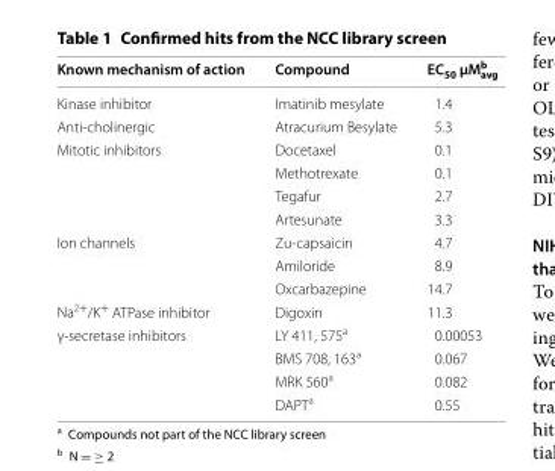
<table><thead><tr><td>Known mechanism of action</td><td>Compound</td><td>EC50 μMb avg</td></tr></thead><tbody><tr><td>Kinase inhibitor</td><td>Imatinib mesylate</td><td>1.4</td></tr><tr><td>Anti‑cholinergic</td><td>Atracurium Besylate</td><td>5.3</td></tr><tr><td rowspan="4">Mitotic inhibitors</td><td>Docetaxel</td><td>0.1</td></tr><tr><td>Methotrexate</td><td>0.1</td></tr><tr><td>Tegafur</td><td>2.7</td></tr><tr><td>Artesunate</td><td>3.3</td></tr><tr><td rowspan="3">Ion channels</td><td>Zu‑capsaicin</td><td>4.7</td></tr><tr><td>Amiloride</td><td>8.9</td></tr><tr><td>Oxcarbazepine</td><td>14.7</td></tr><tr><td>Na<sup>2+</sup>/K<sup>+</sup> ATPase inhibitor</td><td>Digoxin</td><td>11.3</td></tr><tr><td rowspan="4">γ‑secretase inhibitors</td><td>LY 411, 575<sup>a</sup></td><td>0.00053</td></tr><tr><td>BMS 708, 163<sup>a</sup></td><td>0.067</td></tr><tr><td>MRK 560<sup>a</sup></td><td>0.082</td></tr><tr><td>DAPT<sup>a</sup></td><td>0.55</td></tr></tbody></table>